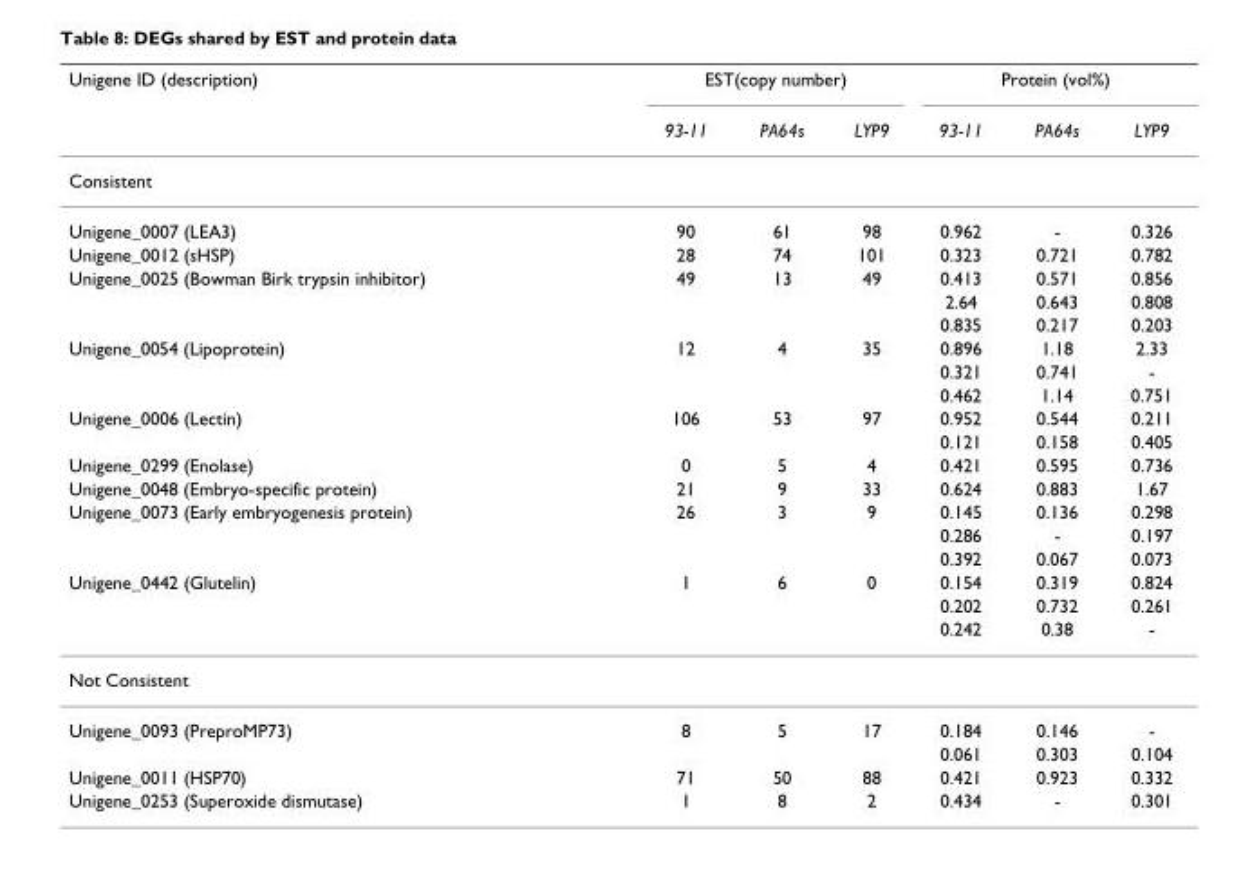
<table><thead><tr><td rowspan="2">Unigene ID (description)</td><td colspan="3">EST(copy number)</td><td colspan="3">Protein (vol%)</td></tr><tr><td>93-11</td><td>PA64s</td><td>LYP9</td><td>93-11</td><td>PA64s</td><td>LYP9</td></tr></thead><tbody><tr><td colspan="7">Consistent</td></tr><tr><td>Unigene_0007 (LEA3)</td><td>90</td><td>61</td><td>98</td><td>0.962</td><td>-</td><td>0.326</td></tr><tr><td>Unigene_0012 (sHSP)</td><td>28</td><td>74</td><td>101</td><td>0.323</td><td>0.721</td><td>0.782</td></tr><tr><td rowspan="3">Unigene_0025 (Bowman Birk trypsin inhibitor)</td><td>49</td><td>13</td><td>49</td><td>0.413</td><td>0.571</td><td>0.856</td></tr><tr><td></td><td></td><td></td><td>2.64</td><td>0.643</td><td>0.808</td></tr><tr><td></td><td></td><td></td><td>0.835</td><td>0.217</td><td>0.203</td></tr><tr><td rowspan="3">Unigene_0054 (Lipoprotein)</td><td>12</td><td>4</td><td>35</td><td>0.896</td><td>1.18</td><td>2.33</td></tr><tr><td></td><td></td><td></td><td>0.321</td><td>0.741</td><td>-</td></tr><tr><td></td><td></td><td></td><td>0.462</td><td>1.14</td><td>0.751</td></tr><tr><td rowspan="2">Unigene_0006 (Lectin)</td><td>106</td><td>53</td><td>97</td><td>0.952</td><td>0.544</td><td>0.211</td></tr><tr><td></td><td></td><td></td><td>0.121</td><td>0.158</td><td>0.405</td></tr><tr><td>Unigene_0299 (Enolase)</td><td>0</td><td>5</td><td>4</td><td>0.421</td><td>0.595</td><td>0.736</td></tr><tr><td>Unigene_0048 (Embryo-specific protein)</td><td>21</td><td>9</td><td>33</td><td>0.624</td><td>0.883</td><td>1.67</td></tr><tr><td rowspan="3">Unigene_0073 (Early embryogenesis protein)</td><td>26</td><td>3</td><td>9</td><td>0.145</td><td>0.136</td><td>0.298</td></tr><tr><td></td><td></td><td></td><td>0.286</td><td>-</td><td>0.197</td></tr><tr><td></td><td></td><td></td><td>0.392</td><td>0.067</td><td>0.073</td></tr><tr><td rowspan="3">Unigene_0442 (Glutelin)</td><td>1</td><td>6</td><td>0</td><td>0.154</td><td>0.319</td><td>0.824</td></tr><tr><td></td><td></td><td></td><td>0.202</td><td>0.732</td><td>0.261</td></tr><tr><td></td><td></td><td></td><td>0.242</td><td>0.38</td><td>-</td></tr><tr><td colspan="7">Not Consistent</td></tr><tr><td rowspan="2">Unigene_0093 (PreproMP73)</td><td>8</td><td>5</td><td>17</td><td>0.184</td><td>0.146</td><td>-</td></tr><tr><td></td><td></td><td></td><td>0.061</td><td>0.303</td><td>0.104</td></tr><tr><td>Unigene_0011 (HSP70)</td><td>71</td><td>50</td><td>88</td><td>0.421</td><td>0.923</td><td>0.332</td></tr><tr><td>Unigene_0253 (Superoxide dismutase)</td><td>1</td><td>8</td><td>2</td><td>0.434</td><td>-</td><td>0.301</td></tr></tbody></table>